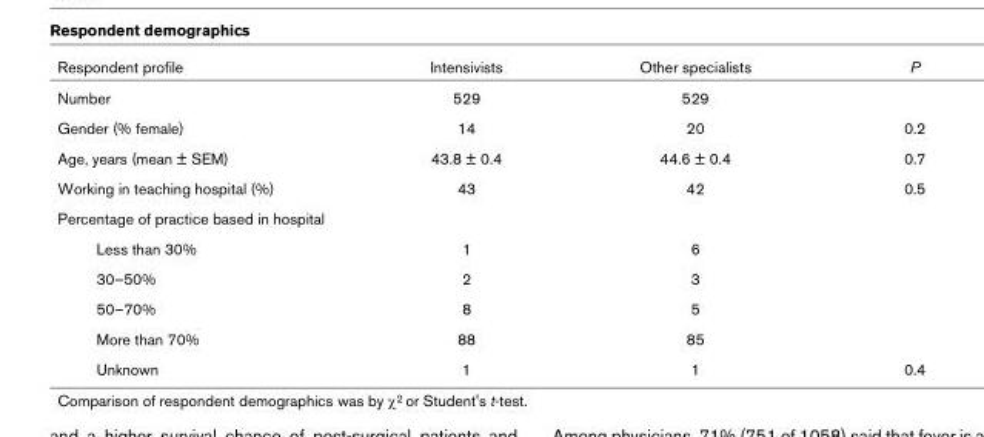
<table><thead><tr><td>Respondent profile</td><td>Intensivists</td><td>Other specialists</td><td>P</td></tr></thead><tbody><tr><td>Number</td><td>529</td><td>529</td><td></td></tr><tr><td>Gender (% female)</td><td>14</td><td>20</td><td>0.2</td></tr><tr><td>Age, years (mean ± SEM)</td><td>43.8 ± 0.4</td><td>44.6 ± 0.4</td><td>0.7</td></tr><tr><td>Working in teaching hospital (%)</td><td>43</td><td>42</td><td>0.5</td></tr><tr><td colspan="4">Percentage of practice based in hospital</td></tr><tr><td>Less than 30%</td><td>1</td><td>6</td><td></td></tr><tr><td>30–50%</td><td>2</td><td>3</td><td></td></tr><tr><td>50–70%</td><td>8</td><td>5</td><td></td></tr><tr><td>More than 70%</td><td>88</td><td>85</td><td></td></tr><tr><td>Unknown</td><td>1</td><td>1</td><td>0.4</td></tr></tbody></table>